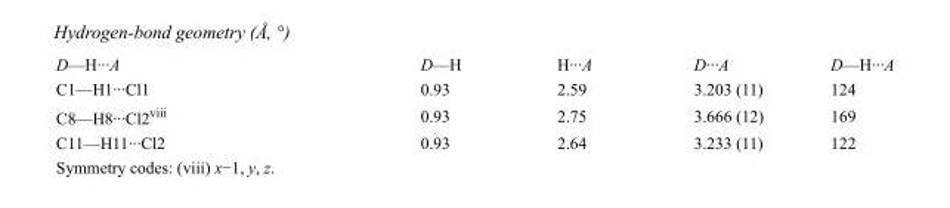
<table><tbody><tr><td>D—H···A</td><td>D—H</td><td>H···A</td><td>D···A</td><td>D—H···A</td></tr><tr><td>C1—H1···Cl1</td><td>0.93</td><td>2.59</td><td>3.203 (11)</td><td>124</td></tr><tr><td>C8—H8···Cl2<sup>viii</sup></td><td>0.93</td><td>2.75</td><td>3.666 (12)</td><td>169</td></tr><tr><td>C11—H11···Cl2</td><td>0.93</td><td>2.64</td><td>3.233 (11)</td><td>122</td></tr></tbody></table>